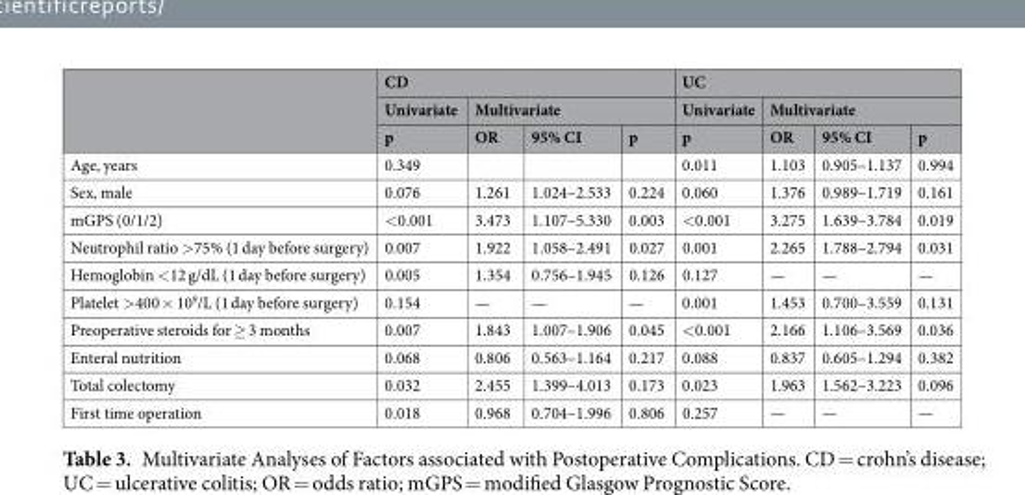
<table><thead><tr><td rowspan="3"></td><td colspan="4">CD</td><td colspan="4">UC</td></tr><tr><td rowspan="2">Univariate p</td><td colspan="3">Multivariate</td><td rowspan="2">Univariate p</td><td colspan="3">Multivariate</td></tr><tr><td>OR</td><td>95% CI</td><td>p</td><td>OR</td><td>95% CI</td><td>p</td></tr></thead><tbody><tr><td>Age, years</td><td>0.349</td><td></td><td></td><td></td><td>0.011</td><td>1.103</td><td>0.905–1.137</td><td>0.994</td></tr><tr><td>Sex, male</td><td>0.076</td><td>1.261</td><td>1.024–2.533</td><td>0.224</td><td>0.060</td><td>1.376</td><td>0.989–1.719</td><td>0.161</td></tr><tr><td>mGPS (0/1/2)</td><td>&lt;0.001</td><td>3.473</td><td>1.107–5.330</td><td>0.003</td><td>&lt;0.001</td><td>3.275</td><td>1.639–3.784</td><td>0.019</td></tr><tr><td>Neutrophil ratio &gt;75% (1 day before surgery)</td><td>0.007</td><td>1.922</td><td>1.058–2.491</td><td>0.027</td><td>0.001</td><td>2.265</td><td>1.788–2.794</td><td>0.031</td></tr><tr><td>Hemoglobin &lt;12 g/dL (1 day before surgery)</td><td>0.005</td><td>1.354</td><td>0.756–1.945</td><td>0.126</td><td>0.127</td><td>—</td><td>—</td><td>—</td></tr><tr><td>Platelet &gt;400 × 10<sup>9</sup>/L (1 day before surgery)</td><td>0.154</td><td>—</td><td>—</td><td>—</td><td>0.001</td><td>1.453</td><td>0.700–3.559</td><td>0.131</td></tr><tr><td>Preoperative steroids for ≥ 3 months</td><td>0.007</td><td>1.843</td><td>1.007–1.906</td><td>0.045</td><td>&lt;0.001</td><td>2.166</td><td>1.106–3.569</td><td>0.036</td></tr><tr><td>Enteral nutrition</td><td>0.068</td><td>0.806</td><td>0.563–1.164</td><td>0.217</td><td>0.088</td><td>0.837</td><td>0.605–1.294</td><td>0.382</td></tr><tr><td>Total colectomy</td><td>0.032</td><td>2.455</td><td>1.399–4.013</td><td>0.173</td><td>0.023</td><td>1.963</td><td>1.562–3.223</td><td>0.096</td></tr><tr><td>First time operation</td><td>0.018</td><td>0.968</td><td>0.704–1.996</td><td>0.806</td><td>0.257</td><td>—</td><td>—</td><td>—</td></tr></tbody></table>